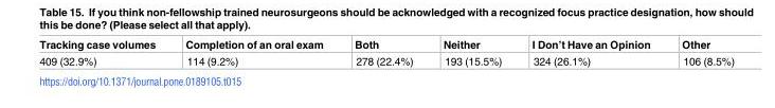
<table><thead><tr><td>Tracking case volumes</td><td>Completion of an oral exam</td><td>Both</td><td>Neither</td><td>I Don’t Have an Opinion</td><td>Other</td></tr></thead><tbody><tr><td>409 (32.9%)</td><td>114 (9.2%)</td><td>278 (22.4%)</td><td>193 (15.5%)</td><td>324 (26.1%)</td><td>106 (8.5%)</td></tr></tbody></table>